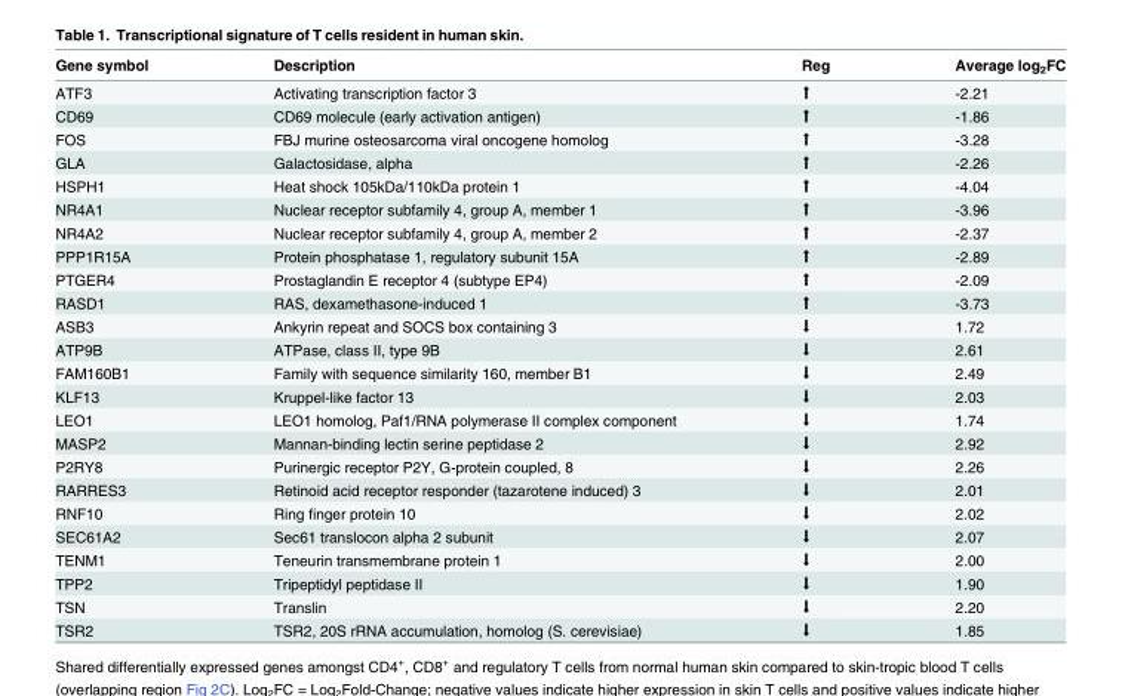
<table><thead><tr><td>Gene symbol</td><td>Description</td><td>Reg</td><td>Average log<sub>2</sub>FC</td></tr></thead><tbody><tr><td>ATF3</td><td>Activating transcription factor 3</td><td>⬆</td><td>-2.21</td></tr><tr><td>CD69</td><td>CD69 molecule (early activation antigen)</td><td>⬆</td><td>-1.86</td></tr><tr><td>FOS</td><td>FBJ murine osteosarcoma viral oncogene homolog</td><td>⬆</td><td>-3.28</td></tr><tr><td>GLA</td><td>Galactosidase, alpha</td><td>⬆</td><td>-2.26</td></tr><tr><td>HSPH1</td><td>Heat shock 105kDa/110kDa protein 1</td><td>⬆</td><td>-4.04</td></tr><tr><td>NR4A1</td><td>Nuclear receptor subfamily 4, group A, member 1</td><td>⬆</td><td>-3.96</td></tr><tr><td>NR4A2</td><td>Nuclear receptor subfamily 4, group A, member 2</td><td>⬆</td><td>-2.37</td></tr><tr><td>PPP1R15A</td><td>Protein phosphatase 1, regulatory subunit 15A</td><td>⬆</td><td>-2.89</td></tr><tr><td>PTGER4</td><td>Prostaglandin E receptor 4 (subtype EP4)</td><td>⬆</td><td>-2.09</td></tr><tr><td>RASD1</td><td>RAS, dexamethasone-induced 1</td><td>⬆</td><td>-3.73</td></tr><tr><td>ASB3</td><td>Ankyrin repeat and SOCS box containing 3</td><td>⬇</td><td>1.72</td></tr><tr><td>ATP9B</td><td>ATPase, class II, type 9B</td><td>⬇</td><td>2.61</td></tr><tr><td>FAM160B1</td><td>Family with sequence similarity 160, member B1</td><td>⬇</td><td>2.49</td></tr><tr><td>KLF13</td><td>Kruppel-like factor 13</td><td>⬇</td><td>2.03</td></tr><tr><td>LEO1</td><td>LEO1 homolog, Paf1/RNA polymerase II complex component</td><td>⬇</td><td>1.74</td></tr><tr><td>MASP2</td><td>Mannan-binding lectin serine peptidase 2</td><td>⬇</td><td>2.92</td></tr><tr><td>P2RY8</td><td>Purinergic receptor P2Y, G-protein coupled, 8</td><td>⬇</td><td>2.26</td></tr><tr><td>RARRES3</td><td>Retinoid acid receptor responder (tazarotene induced) 3</td><td>⬇</td><td>2.01</td></tr><tr><td>RNF10</td><td>Ring finger protein 10</td><td>⬇</td><td>2.02</td></tr><tr><td>SEC61A2</td><td>Sec61 translocon alpha 2 subunit</td><td>⬇</td><td>2.07</td></tr><tr><td>TENM1</td><td>Teneurin transmembrane protein 1</td><td>⬇</td><td>2.00</td></tr><tr><td>TPP2</td><td>Tripeptidyl peptidase II</td><td>⬇</td><td>1.90</td></tr><tr><td>TSN</td><td>Translin</td><td>⬇</td><td>2.20</td></tr><tr><td>TSR2</td><td>TSR2, 20S rRNA accumulation, homolog (S. cerevisiae)</td><td>⬇</td><td>1.85</td></tr></tbody></table>